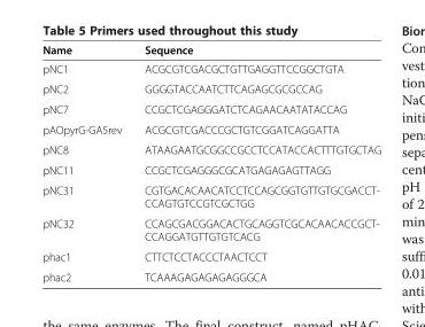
<table><thead><tr><td>Name</td><td>Sequence</td></tr></thead><tbody><tr><td>pNC1</td><td>ACGCGTCGACGCTGTTGAGGTTCCGGCTGTA</td></tr><tr><td>pNC2</td><td>GGGGTACCAATCTTCAGAGCGCGCCAG</td></tr><tr><td>pNC7</td><td>CCGCTCGAGGGATCTCAGAACAATATACCAG</td></tr><tr><td>pAOpyrG-GA5rev</td><td>ACGCGTCGACCCGCTGTCGGATCAGGATTA</td></tr><tr><td>pNC8</td><td>ATAAGAATGCGGCCGCCTCCATACCACTTTGTGCTAG</td></tr><tr><td>pNC11</td><td>CCGCTCGAGGGCGCATGAGAGAGTTAGG</td></tr><tr><td>pNC31</td><td>CGTGACACAACATCCTCCAGCGGTGTTGTGCGACCT- CCAGTGTCCGTCGCTGG</td></tr><tr><td>pNC32</td><td>CCAGCGACGGACACTGCAGGTCGCACAACACCGCT- CCAGGATGTTGTGTCACG</td></tr><tr><td>phac1</td><td>CTTCTCCTACCCTAACTCCT</td></tr><tr><td>phac2</td><td>TCAAAGAGAGAGAGGGCA</td></tr></tbody></table>